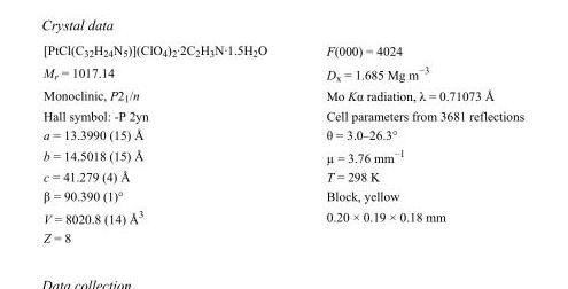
<table><tbody><tr><td>[PtCl(C<sub>32</sub>H<sub>24</sub>N<sub>5</sub>)](ClO<sub>4</sub>)<sub>2</sub>·2C<sub>2</sub>H<sub>3</sub>N·1.5H<sub>2</sub>O</td><td>F(000) = 4024</td></tr><tr><td>M<sub>r</sub> = 1017.14</td><td>D<sub>x</sub> = 1.685 Mg m<sup>−3</sup></td></tr><tr><td>Monoclinic, P2<sub>1</sub>/n</td><td>Mo Kα radiation, λ = 0.71073 Å</td></tr><tr><td>Hall symbol: -P 2yn</td><td>Cell parameters from 3681 reflections</td></tr><tr><td>a = 13.3990 (15) Å</td><td>θ = 3.0–26.3°</td></tr><tr><td>b = 14.5018 (15) Å</td><td>µ = 3.76 mm<sup>−1</sup></td></tr><tr><td>c = 41.279 (4) Å</td><td>T = 298 K</td></tr><tr><td>β = 90.390 (1)°</td><td>Block, yellow</td></tr><tr><td>V = 8020.8 (14) Å<sup>3</sup></td><td>0.20 × 0.19 × 0.18 mm</td></tr><tr><td>Z = 8</td><td></td></tr></tbody></table>